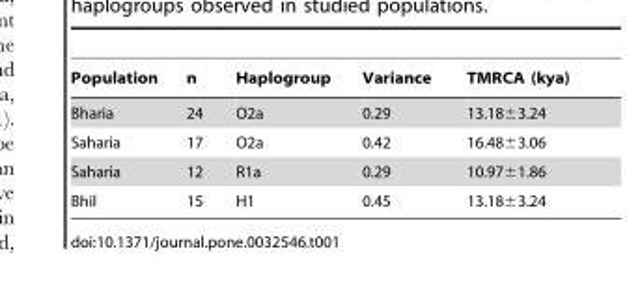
<table><thead><tr><td>Population</td><td>n</td><td>Haplogroup</td><td>Variance</td><td>TMRCA (kya)</td></tr></thead><tbody><tr><td>Bharia</td><td>24</td><td>O2a</td><td>0.29</td><td>13.18±3.24</td></tr><tr><td>Saharia</td><td>17</td><td>O2a</td><td>0.42</td><td>16.48±3.06</td></tr><tr><td>Saharia</td><td>12</td><td>R1a</td><td>0.29</td><td>10.97±1.86</td></tr><tr><td>Bhil</td><td>15</td><td>H1</td><td>0.45</td><td>13.18±3.24</td></tr></tbody></table>